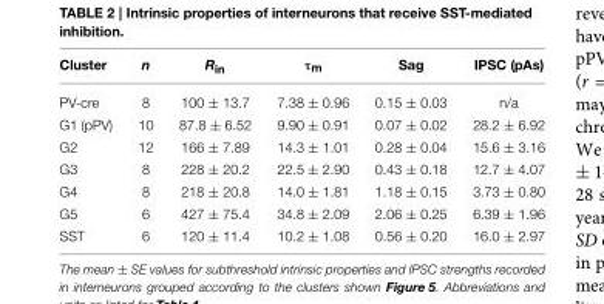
<table><thead><tr><td>Cluster</td><td>n</td><td>R<sub>in</sub></td><td>τ<sub>m</sub></td><td>Sag</td><td>IPSC (pAs)</td></tr></thead><tbody><tr><td>PV-cre</td><td>8</td><td>100 ± 13.7</td><td>7.38 ± 0.96</td><td>0.15 ± 0.03</td><td>n/a</td></tr><tr><td>G1 (pPV)</td><td>10</td><td>87.8 ± 6.52</td><td>9.90 ± 0.91</td><td>0.07 ± 0.02</td><td>28.2 ± 6.92</td></tr><tr><td>G2</td><td>12</td><td>166 ± 7.89</td><td>14.3 ± 1.01</td><td>0.28 ± 0.04</td><td>15.6 ± 3.16</td></tr><tr><td>G3</td><td>8</td><td>228 ± 20.2</td><td>22.5 ± 2.90</td><td>0.43 ± 0.18</td><td>12.7 ± 4.07</td></tr><tr><td>G4</td><td>8</td><td>218 ± 20.8</td><td>14.0 ± 1.81</td><td>1.18 ± 0.15</td><td>3.73 ± 0.80</td></tr><tr><td>G5</td><td>6</td><td>427 ± 75.4</td><td>34.8 ± 2.09</td><td>2.06 ± 0.25</td><td>6.39 ± 1.96</td></tr><tr><td>SST</td><td>6</td><td>120 ± 11.4</td><td>10.2 ± 1.08</td><td>0.56 ± 0.20</td><td>16.0 ± 2.97</td></tr></tbody></table>